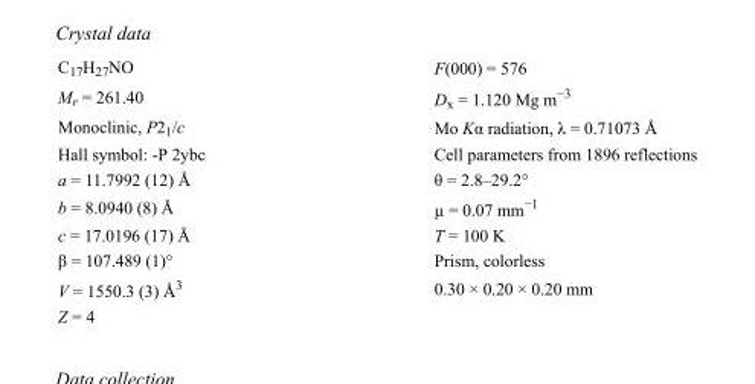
<table><tbody><tr><td>C<sub>17</sub>H<sub>27</sub>NO</td><td>F(000) = 576</td></tr><tr><td>M<sub>r</sub> = 261.40</td><td>D<sub>x</sub> = 1.120 Mg m<sup>−3</sup></td></tr><tr><td>Monoclinic, P2<sub>1</sub>/c</td><td>Mo Kα radiation, λ = 0.71073 Å</td></tr><tr><td>Hall symbol: -P 2ybc</td><td>Cell parameters from 1896 reflections</td></tr><tr><td>a = 11.7992 (12) Å</td><td>θ = 2.8–29.2°</td></tr><tr><td>b = 8.0940 (8) Å</td><td>µ = 0.07 mm<sup>−1</sup></td></tr><tr><td>c = 17.0196 (17) Å</td><td>T = 100 K</td></tr><tr><td>β = 107.489 (1)°</td><td>Prism, colorless</td></tr><tr><td>V = 1550.3 (3) Å<sup>3</sup></td><td>0.30 × 0.20 × 0.20 mm</td></tr><tr><td>Z = 4</td><td></td></tr></tbody></table>